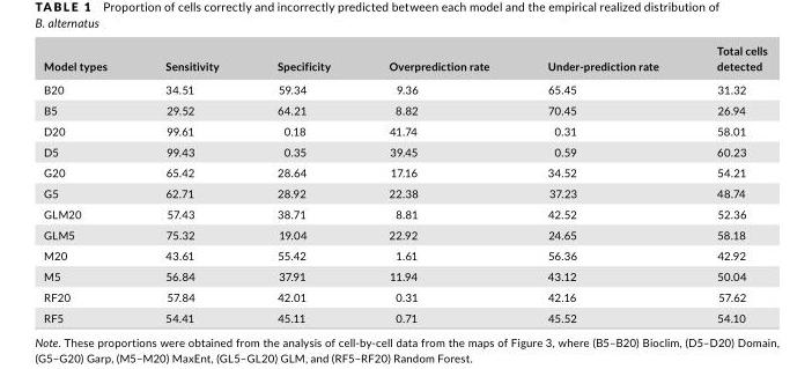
<table><thead><tr><td>Model types</td><td>Sensitivity</td><td>Specificity</td><td>Overprediction rate</td><td>Under- prediction rate</td><td>Total cells detected</td></tr></thead><tbody><tr><td>B20</td><td>34.51</td><td>59.34</td><td>9.36</td><td>65.45</td><td>31.32</td></tr><tr><td>B5</td><td>29.52</td><td>64.21</td><td>8.82</td><td>70.45</td><td>26.94</td></tr><tr><td>D20</td><td>99.61</td><td>0.18</td><td>41.74</td><td>0.31</td><td>58.01</td></tr><tr><td>D5</td><td>99.43</td><td>0.35</td><td>39.45</td><td>0.59</td><td>60.23</td></tr><tr><td>G20</td><td>65.42</td><td>28.64</td><td>17.16</td><td>34.52</td><td>54.21</td></tr><tr><td>G5</td><td>62.71</td><td>28.92</td><td>22.38</td><td>37.23</td><td>48.74</td></tr><tr><td>GLM20</td><td>57.43</td><td>38.71</td><td>8.81</td><td>42.52</td><td>52.36</td></tr><tr><td>GLM5</td><td>75.32</td><td>19.04</td><td>22.92</td><td>24.65</td><td>58.18</td></tr><tr><td>M20</td><td>43.61</td><td>55.42</td><td>1.61</td><td>56.36</td><td>42.92</td></tr><tr><td>M5</td><td>56.84</td><td>37.91</td><td>11.94</td><td>43.12</td><td>50.04</td></tr><tr><td>RF20</td><td>57.84</td><td>42.01</td><td>0.31</td><td>42.16</td><td>57.62</td></tr><tr><td>RF5</td><td>54.41</td><td>45.11</td><td>0.71</td><td>45.52</td><td>54.10</td></tr></tbody></table>